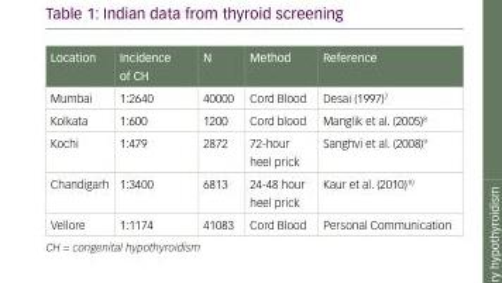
<table><thead><tr><td>Location</td><td>Incidence of CH</td><td>N</td><td>Method</td><td>Reference</td></tr></thead><tbody><tr><td>Mumbai</td><td>1:2640</td><td>40000</td><td>Cord Blood</td><td>Desai (1997)<sup>7</sup></td></tr><tr><td>Kolkata</td><td>1:600</td><td>1200</td><td>Cord blood</td><td>Manglik et al. (2005)<sup>8</sup></td></tr><tr><td>Kochi</td><td>1:479</td><td>2872</td><td>72-hour heel prick</td><td>Sanghvi et al. (2008)<sup>9</sup></td></tr><tr><td>Chandigarh</td><td>1:3400</td><td>6813</td><td>24-48 hour heel prick</td><td>Kaur et al. (2010)<sup>10</sup></td></tr><tr><td>Vellore</td><td>1:1174</td><td>41083</td><td>Cord Blood</td><td>Personal Communication</td></tr></tbody></table>